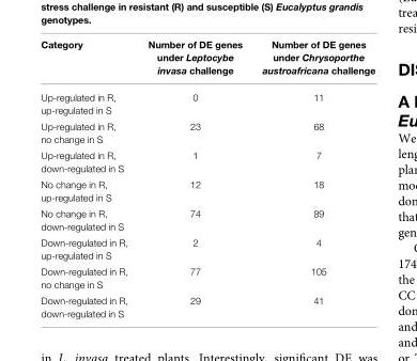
<table><thead><tr><td>Category</td><td>Number of DE genes under Leptocybe invasa challenge</td><td>Number of DE genes under Chrysoporthe austroafricana challenge</td></tr></thead><tbody><tr><td>Up-regulated in R, up-regulated in S</td><td>0</td><td>11</td></tr><tr><td>Up-regulated in R, no change in S</td><td>23</td><td>68</td></tr><tr><td>Up-regulated in R, down-regulated in S</td><td>1</td><td>7</td></tr><tr><td>No change in R, up-regulated in S</td><td>12</td><td>18</td></tr><tr><td>No change in R, down-regulated in S</td><td>74</td><td>89</td></tr><tr><td>Down-regulated in R, up-regulated in S</td><td>2</td><td>4</td></tr><tr><td>Down-regulated in R, no change in S</td><td>77</td><td>105</td></tr><tr><td>Down-regulated in R, down-regulated in S</td><td>29</td><td>41</td></tr></tbody></table>